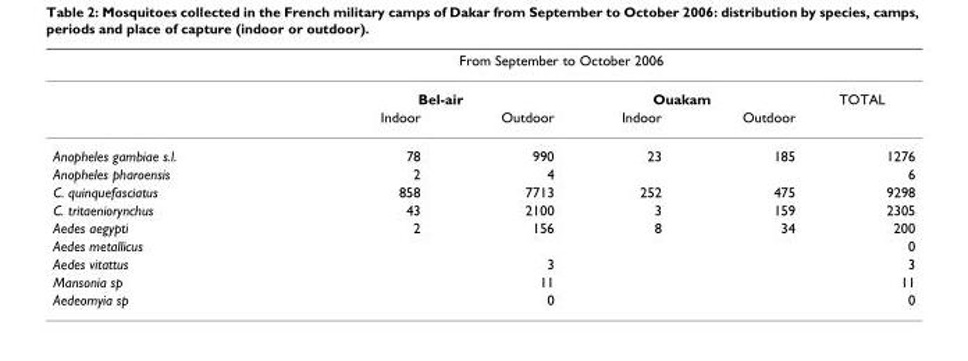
<table><thead><tr><td rowspan="3"></td><td colspan="4">From September to October 2006</td><td rowspan="3">TOTAL</td></tr><tr><td colspan="2">Bel-air</td><td colspan="2">Ouakam</td></tr><tr><td>Indoor</td><td>Outdoor</td><td>Indoor</td><td>Outdoor</td></tr></thead><tbody><tr><td>Anopheles gambiae s.l.</td><td>78</td><td>990</td><td>23</td><td>185</td><td>1276</td></tr><tr><td>Anopheles pharoensis</td><td>2</td><td>4</td><td></td><td></td><td>6</td></tr><tr><td>C. quinquefasciatus</td><td>858</td><td>7713</td><td>252</td><td>475</td><td>9298</td></tr><tr><td>C. tritaeniorynchus</td><td>43</td><td>2100</td><td>3</td><td>159</td><td>2305</td></tr><tr><td>Aedes aegypti</td><td>2</td><td>156</td><td>8</td><td>34</td><td>200</td></tr><tr><td>Aedes metallicus</td><td></td><td></td><td></td><td></td><td>0</td></tr><tr><td>Aedes vitattus</td><td></td><td>3</td><td></td><td></td><td>3</td></tr><tr><td>Mansonia sp</td><td></td><td>11</td><td></td><td></td><td>11</td></tr><tr><td>Aedeomyia sp</td><td></td><td>0</td><td></td><td></td><td>0</td></tr></tbody></table>